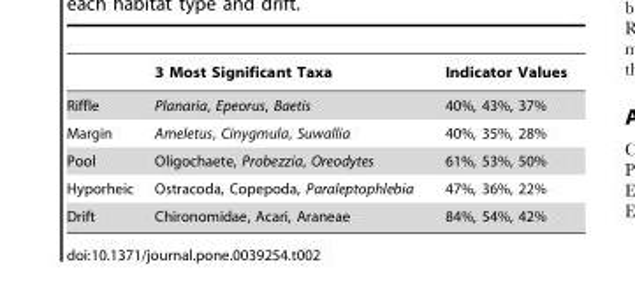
<table><thead><tr><td></td><td>3 Most Significant Taxa</td><td>Indicator Values</td></tr></thead><tbody><tr><td>Riffle</td><td>Planaria, Epeorus, Baetis</td><td>40%, 43%, 37%</td></tr><tr><td>Margin</td><td>Ameletus, Cinygmula, Suwallia</td><td>40%, 35%, 28%</td></tr><tr><td>Pool</td><td>Oligochaete, Probezzia, Oreodytes</td><td>61%, 53%, 50%</td></tr><tr><td>Hyporheic</td><td>Ostracoda, Copepoda, Paraleptophlebia</td><td>47%, 36%, 22%</td></tr><tr><td>Drift</td><td>Chironomidae, Acari, Araneae</td><td>84%, 54%, 42%</td></tr></tbody></table>